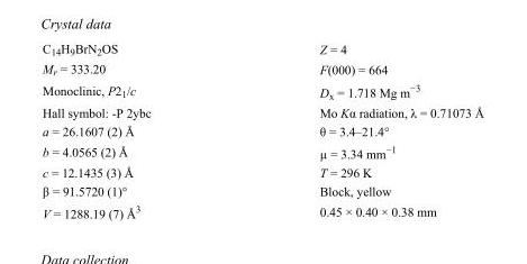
<table><tbody><tr><td>C<sub>14</sub>H<sub>9</sub>BrN<sub>2</sub>OS</td><td>Z = 4</td></tr><tr><td>M<sub>r</sub> = 333.20</td><td>F(000) = 664</td></tr><tr><td>Monoclinic, P2<sub>1</sub>/c</td><td>D<sub>x</sub> = 1.718 Mg m<sup>−3</sup></td></tr><tr><td>Hall symbol: -P 2ybc</td><td>Mo Kα radiation, λ = 0.71073 Å</td></tr><tr><td>a = 26.1607 (2) Å</td><td>θ = 3.4–21.4°</td></tr><tr><td>b = 4.0565 (2) Å</td><td>µ = 3.34 mm<sup>−1</sup></td></tr><tr><td>c = 12.1435 (3) Å</td><td>T = 296 K</td></tr><tr><td>β = 91.5720 (1)°</td><td>Block, yellow</td></tr><tr><td>V = 1288.19 (7) Å<sup>3</sup></td><td>0.45 × 0.40 × 0.38 mm</td></tr></tbody></table>